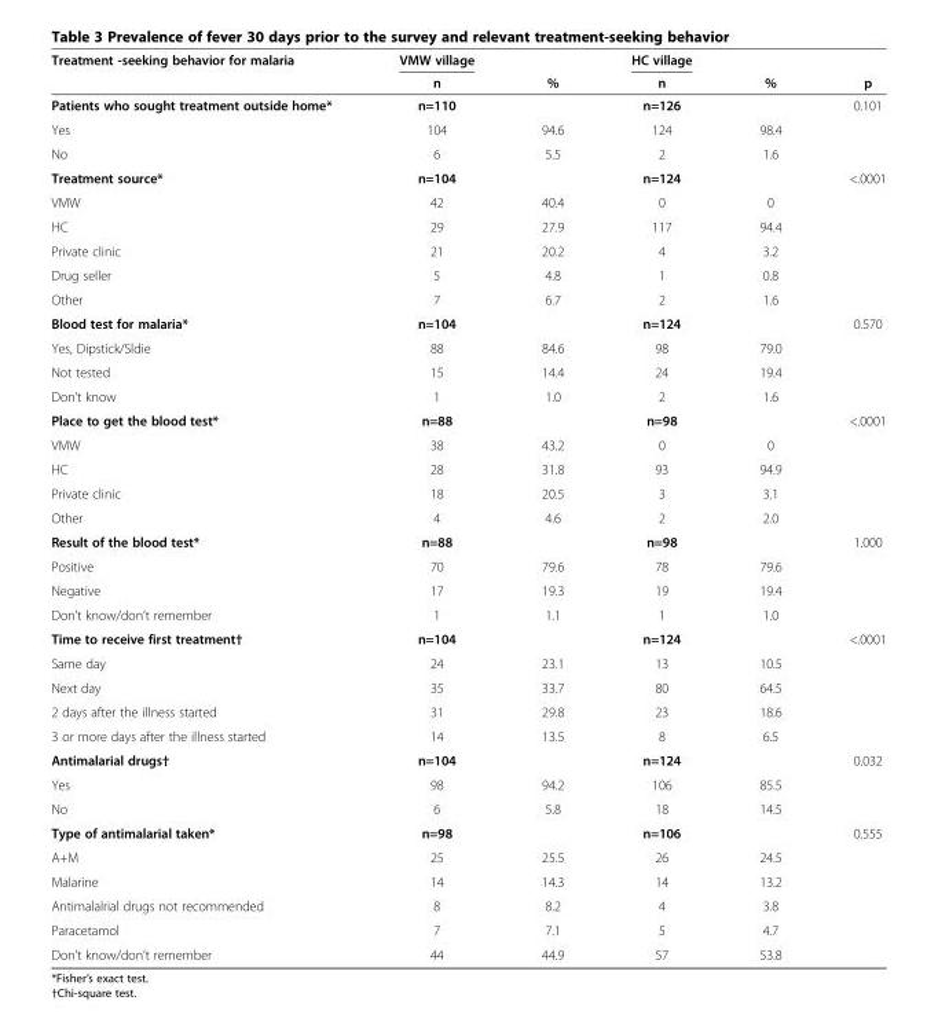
<table><thead><tr><td rowspan="2">Treatment -seeking behavior for malaria</td><td rowspan="2">VMW village n</td><td rowspan="2">%</td><td rowspan="2">HC village n</td><td rowspan="2">%</td><td rowspan="2">p</td></tr><tr></tr></thead><tbody><tr><td>Patients who sought treatment outside home*</td><td>n=110</td><td></td><td>n=126</td><td></td><td>0.101</td></tr><tr><td>Yes</td><td>104</td><td>94.6</td><td>124</td><td>98.4</td><td></td></tr><tr><td>No</td><td>6</td><td>5.5</td><td>2</td><td>1.6</td><td></td></tr><tr><td>Treatment source*</td><td>n=104</td><td></td><td>n=124</td><td></td><td>&lt;.0001</td></tr><tr><td>VMW</td><td>42</td><td>40.4</td><td>0</td><td>0</td><td></td></tr><tr><td>HC</td><td>29</td><td>27.9</td><td>117</td><td>94.4</td><td></td></tr><tr><td>Private clinic</td><td>21</td><td>20.2</td><td>4</td><td>3.2</td><td></td></tr><tr><td>Drug seller</td><td>5</td><td>4.8</td><td>1</td><td>0.8</td><td></td></tr><tr><td>Other</td><td>7</td><td>6.7</td><td>2</td><td>1.6</td><td></td></tr><tr><td>Blood test for malaria*</td><td>n=104</td><td></td><td>n=124</td><td></td><td>0.570</td></tr><tr><td>Yes, Dipstick/Sldie</td><td>88</td><td>84.6</td><td>98</td><td>79.0</td><td></td></tr><tr><td>Not tested</td><td>15</td><td>14.4</td><td>24</td><td>19.4</td><td></td></tr><tr><td>Don’t know</td><td>1</td><td>1.0</td><td>2</td><td>1.6</td><td></td></tr><tr><td>Place to get the blood test*</td><td>n=88</td><td></td><td>n=98</td><td></td><td>&lt;.0001</td></tr><tr><td>VMW</td><td>38</td><td>43.2</td><td>0</td><td>0</td><td></td></tr><tr><td>HC</td><td>28</td><td>31.8</td><td>93</td><td>94.9</td><td></td></tr><tr><td>Private clinic</td><td>18</td><td>20.5</td><td>3</td><td>3.1</td><td></td></tr><tr><td>Other</td><td>4</td><td>4.6</td><td>2</td><td>2.0</td><td></td></tr><tr><td>Result of the blood test*</td><td>n=88</td><td></td><td>n=98</td><td></td><td>1.000</td></tr><tr><td>Positive</td><td>70</td><td>79.6</td><td>78</td><td>79.6</td><td></td></tr><tr><td>Negative</td><td>17</td><td>19.3</td><td>19</td><td>19.4</td><td></td></tr><tr><td>Don’t know/don’t remember</td><td>1</td><td>1.1</td><td>1</td><td>1.0</td><td></td></tr><tr><td>Time to receive first treatment†</td><td>n=104</td><td></td><td>n=124</td><td></td><td>&lt;.0001</td></tr><tr><td>Same day</td><td>24</td><td>23.1</td><td>13</td><td>10.5</td><td></td></tr><tr><td>Next day</td><td>35</td><td>33.7</td><td>80</td><td>64.5</td><td></td></tr><tr><td>2 days after the illness started</td><td>31</td><td>29.8</td><td>23</td><td>18.6</td><td></td></tr><tr><td>3 or more days after the illness started</td><td>14</td><td>13.5</td><td>8</td><td>6.5</td><td></td></tr><tr><td>Antimalarial drugs†</td><td>n=104</td><td></td><td>n=124</td><td></td><td>0.032</td></tr><tr><td>Yes</td><td>98</td><td>94.2</td><td>106</td><td>85.5</td><td></td></tr><tr><td>No</td><td>6</td><td>5.8</td><td>18</td><td>14.5</td><td></td></tr><tr><td>Type of antimalarial taken*</td><td>n=98</td><td></td><td>n=106</td><td></td><td>0.555</td></tr><tr><td>A+M</td><td>25</td><td>25.5</td><td>26</td><td>24.5</td><td></td></tr><tr><td>Malarine</td><td>14</td><td>14.3</td><td>14</td><td>13.2</td><td></td></tr><tr><td>Antimalalrial drugs not recommended</td><td>8</td><td>8.2</td><td>4</td><td>3.8</td><td></td></tr><tr><td>Paracetamol</td><td>7</td><td>7.1</td><td>5</td><td>4.7</td><td></td></tr><tr><td>Don’t know/don’t remember</td><td>44</td><td>44.9</td><td>57</td><td>53.8</td><td></td></tr></tbody></table>